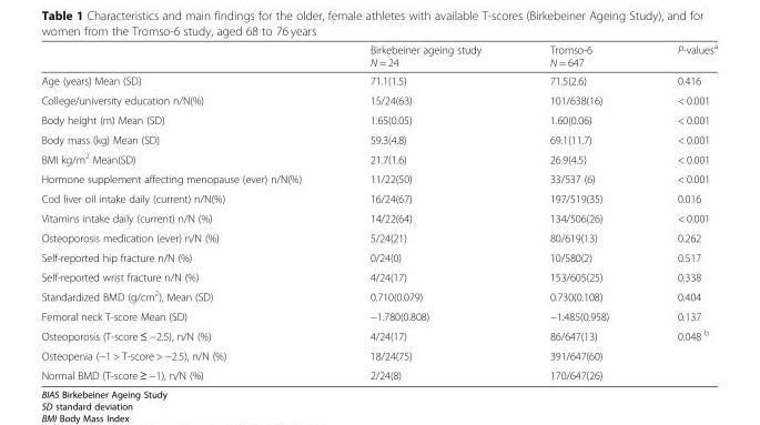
<table><thead><tr><td></td><td>Birkebeiner ageing study N = 24</td><td>Tromso-6 N = 647</td><td>P-values<sup>a</sup></td></tr></thead><tbody><tr><td>Age (years) Mean (SD)</td><td>71.1(1.5)</td><td>71.5(2.6)</td><td>0.416</td></tr><tr><td>College/university education n/N(%)</td><td>15/24(63)</td><td>101/638(16)</td><td>&lt; 0.001</td></tr><tr><td>Body height (m) Mean (SD)</td><td>1.65(0.05)</td><td>1.60(0.06)</td><td>&lt; 0.001</td></tr><tr><td>Body mass (kg) Mean (SD)</td><td>59.3(4.8)</td><td>69.1(11.7)</td><td>&lt; 0.001</td></tr><tr><td>BMI kg/m<sup>2</sup> Mean(SD)</td><td>21.7(1.6)</td><td>26.9(4.5)</td><td>&lt; 0.001</td></tr><tr><td>Hormone supplement affecting menopause (ever) n/N(%)</td><td>11/22(50)</td><td>33/537 (6)</td><td>&lt; 0.001</td></tr><tr><td>Cod liver oil intake daily (current) n/N(%)</td><td>16/24(67)</td><td>197/519(35)</td><td>0.016</td></tr><tr><td>Vitamins intake daily (current) n/N (%)</td><td>14/22(64)</td><td>134/506(26)</td><td>&lt; 0.001</td></tr><tr><td>Osteoporosis medication (ever) n/N (%)</td><td>5/24(21)</td><td>80/619(13)</td><td>0.262</td></tr><tr><td>Self-reported hip fracture n/N (%)</td><td>0/24(0)</td><td>10/580(2)</td><td>0.517</td></tr><tr><td>Self-reported wrist fracture n/N (%)</td><td>4/24(17)</td><td>153/605(25)</td><td>0.338</td></tr><tr><td>Standardized BMD (g/cm<sup>2</sup>), Mean (SD)</td><td>0.710(0.079)</td><td>0.730(0.108)</td><td>0.404</td></tr><tr><td>Femoral neck T-score Mean (SD)</td><td>−1.780(0.808)</td><td>−1.485(0.958)</td><td>0.137</td></tr><tr><td>Osteoporosis (T-score ≤ −2.5), n/N (%)</td><td>4/24(17)</td><td>86/647(13)</td><td rowspan="3">0.048 <sup>b</sup></td></tr><tr><td>Osteopenia (−1 &gt; T-score &gt; −2.5), n/N (%)</td><td>18/24(75)</td><td>391/647(60)</td></tr><tr><td>Normal BMD (T-score ≥ −1), n/N (%)</td><td>2/24(8)</td><td>170/647(26)</td></tr></tbody></table>